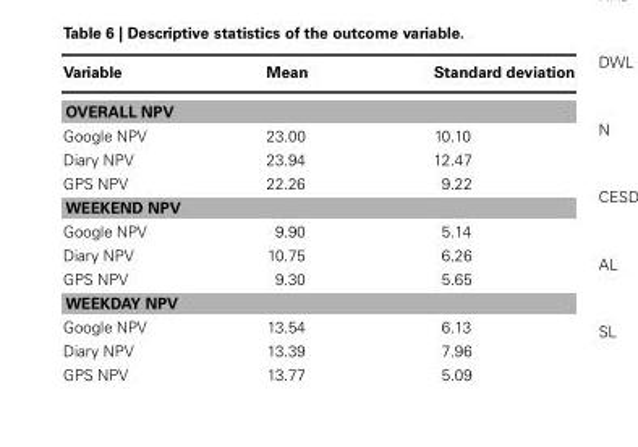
<table><thead><tr><td>Variable</td><td>Mean</td><td>Standard deviation</td></tr></thead><tbody><tr><td colspan="3">OVERALL NPV</td></tr><tr><td>Google NPV</td><td>23.00</td><td>10.10</td></tr><tr><td>Diary NPV</td><td>23.94</td><td>12.47</td></tr><tr><td>GPS NPV</td><td>22.26</td><td>9.22</td></tr><tr><td colspan="3">WEEKEND NPV</td></tr><tr><td>Google NPV</td><td>9.90</td><td>5.14</td></tr><tr><td>Diary NPV</td><td>10.75</td><td>6.26</td></tr><tr><td>GPS NPV</td><td>9.30</td><td>5.65</td></tr><tr><td colspan="3">WEEKDAY NPV</td></tr><tr><td>Google NPV</td><td>13.54</td><td>6.13</td></tr><tr><td>Diary NPV</td><td>13.39</td><td>7.96</td></tr><tr><td>GPS NPV</td><td>13.77</td><td>5.09</td></tr></tbody></table>